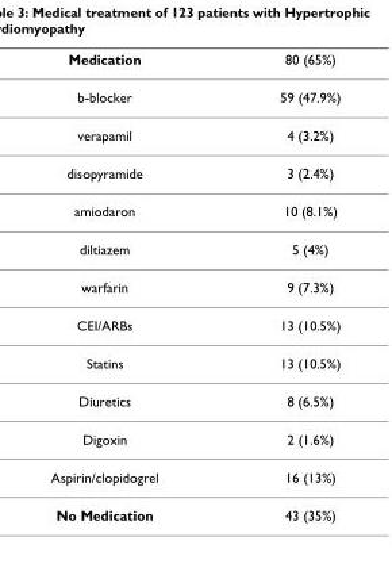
<table><thead><tr><td>Medication</td><td>80 (65%)</td></tr></thead><tbody><tr><td>b-blocker</td><td>59 (47.9%)</td></tr><tr><td>verapamil</td><td>4 (3.2%)</td></tr><tr><td>disopyramide</td><td>3 (2.4%)</td></tr><tr><td>amiodaron</td><td>10 (8.1%)</td></tr><tr><td>diltiazem</td><td>5 (4%)</td></tr><tr><td>warfarin</td><td>9 (7.3%)</td></tr><tr><td>CEI/ARBs</td><td>13 (10.5%)</td></tr><tr><td>Statins</td><td>13 (10.5%)</td></tr><tr><td>Diuretics</td><td>8 (6.5%)</td></tr><tr><td>Digoxin</td><td>2 (1.6%)</td></tr><tr><td>Aspirin/clopidogrel</td><td>16 (13%)</td></tr><tr><td>No Medication</td><td>43 (35%)</td></tr></tbody></table>